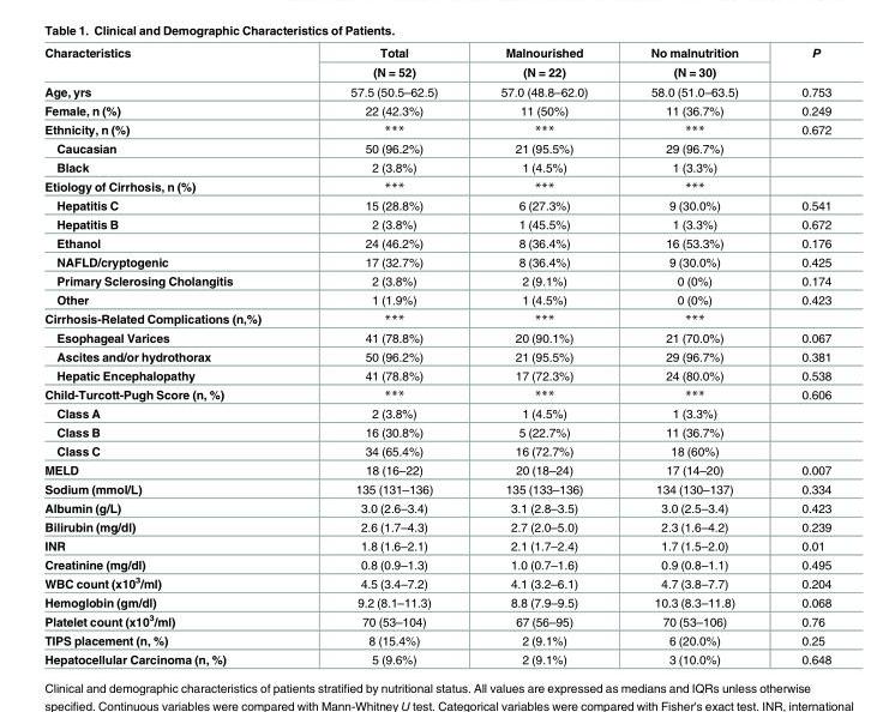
<table><thead><tr><td rowspan="2">Characteristics</td><td rowspan="2">Total (N = 52)</td><td rowspan="2">Malnourished (N = 22)</td><td rowspan="2">No malnutrition (N = 30)</td><td rowspan="2">P</td></tr><tr></tr></thead><tbody><tr><td>Age, yrs</td><td>57.5 (50.5–62.5)</td><td>57.0 (48.8–62.0)</td><td>58.0 (51.0–63.5)</td><td>0.753</td></tr><tr><td>Female, n (%)</td><td>22 (42.3%)</td><td>11 (50%)</td><td>11 (36.7%)</td><td>0.249</td></tr><tr><td>Ethnicity, n (%)</td><td>***</td><td>***</td><td>***</td><td>0.672</td></tr><tr><td>Caucasian</td><td>50 (96.2%)</td><td>21 (95.5%)</td><td>29 (96.7%)</td><td></td></tr><tr><td>Black</td><td>2 (3.8%)</td><td>1 (4.5%)</td><td>1 (3.3%)</td><td></td></tr><tr><td>Etiology of Cirrhosis, n (%)</td><td>***</td><td>***</td><td>***</td><td></td></tr><tr><td>Hepatitis C</td><td>15 (28.8%)</td><td>6 (27.3%)</td><td>9 (30.0%)</td><td>0.541</td></tr><tr><td>Hepatitis B</td><td>2 (3.8%)</td><td>1 (45.5%)</td><td>1 (3.3%)</td><td>0.672</td></tr><tr><td>Ethanol</td><td>24 (46.2%)</td><td>8 (36.4%)</td><td>16 (53.3%)</td><td>0.176</td></tr><tr><td>NAFLD/cryptogenic</td><td>17 (32.7%)</td><td>8 (36.4%)</td><td>9 (30.0%)</td><td>0.425</td></tr><tr><td>Primary Sclerosing Cholangitis</td><td>2 (3.8%)</td><td>2 (9.1%)</td><td>0 (0%)</td><td>0.174</td></tr><tr><td>Other</td><td>1 (1.9%)</td><td>1 (4.5%)</td><td>0 (0%)</td><td>0.423</td></tr><tr><td>Cirrhosis-Related Complications (n,%)</td><td>***</td><td>***</td><td>***</td><td></td></tr><tr><td>Esophageal Varices</td><td>41 (78.8%)</td><td>20 (90.1%)</td><td>21 (70.0%)</td><td>0.067</td></tr><tr><td>Ascites and/or hydrothorax</td><td>50 (96.2%)</td><td>21 (95.5%)</td><td>29 (96.7%)</td><td>0.381</td></tr><tr><td>Hepatic Encephalopathy</td><td>41 (78.8%)</td><td>17 (72.3%)</td><td>24 (80.0%)</td><td>0.538</td></tr><tr><td>Child-Turcott-Pugh Score (n, %)</td><td>***</td><td>***</td><td>***</td><td>0.606</td></tr><tr><td>Class A</td><td>2 (3.8%)</td><td>1 (4.5%)</td><td>1 (3.3%)</td><td></td></tr><tr><td>Class B</td><td>16 (30.8%)</td><td>5 (22.7%)</td><td>11 (36.7%)</td><td></td></tr><tr><td>Class C</td><td>34 (65.4%)</td><td>16 (72.7%)</td><td>18 (60%)</td><td></td></tr><tr><td>MELD</td><td>18 (16–22)</td><td>20 (18–24)</td><td>17 (14–20)</td><td>0.007</td></tr><tr><td>Sodium (mmol/L)</td><td>135 (131–136)</td><td>135 (133–136)</td><td>134 (130–137)</td><td>0.334</td></tr><tr><td>Albumin (g/L)</td><td>3.0 (2.6–3.4)</td><td>3.1 (2.8–3.5)</td><td>3.0 (2.5–3.4)</td><td>0.423</td></tr><tr><td>Bilirubin (mg/dl)</td><td>2.6 (1.7–4.3)</td><td>2.7 (2.0–5.0)</td><td>2.3 (1.6–4.2)</td><td>0.239</td></tr><tr><td>INR</td><td>1.8 (1.6–2.1)</td><td>2.1 (1.7–2.4)</td><td>1.7 (1.5–2.0)</td><td>0.01</td></tr><tr><td>Creatinine (mg/dl)</td><td>0.8 (0.9–1.3)</td><td>1.0 (0.7–1.6)</td><td>0.9 (0.8–1.1)</td><td>0.495</td></tr><tr><td>WBC count (x10<sup>3</sup>/ml)</td><td>4.5 (3.4–7.2)</td><td>4.1 (3.2–6.1)</td><td>4.7 (3.8–7.7)</td><td>0.204</td></tr><tr><td>Hemoglobin (gm/dl)</td><td>9.2 (8.1–11.3)</td><td>8.8 (7.9–9.5)</td><td>10.3 (8.3–11.8)</td><td>0.068</td></tr><tr><td>Platelet count (x10<sup>3</sup>/ml)</td><td>70 (53–104)</td><td>67 (56–95)</td><td>70 (53–106)</td><td>0.76</td></tr><tr><td>TIPS placement (n, %)</td><td>8 (15.4%)</td><td>2 (9.1%)</td><td>6 (20.0%)</td><td>0.25</td></tr><tr><td>Hepatocellular Carcinoma (n, %)</td><td>5 (9.6%)</td><td>2 (9.1%)</td><td>3 (10.0%)</td><td>0.648</td></tr></tbody></table>